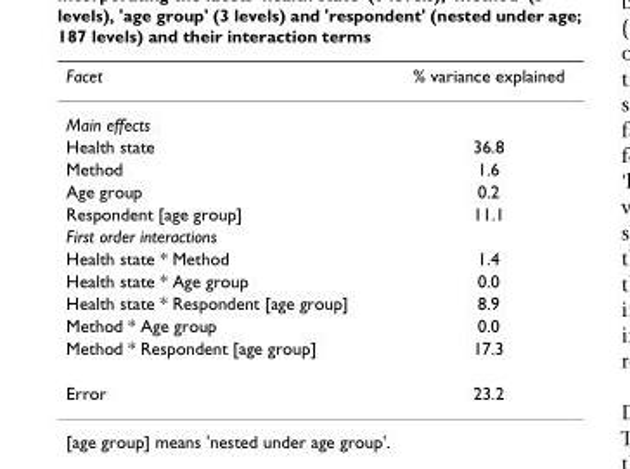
<table><thead><tr><td>Facet</td><td>% variance explained</td></tr></thead><tbody><tr><td colspan="2">Main effects</td></tr><tr><td>Health state</td><td>36.8</td></tr><tr><td>Method</td><td>1.6</td></tr><tr><td>Age group</td><td>0.2</td></tr><tr><td>Respondent [age group]</td><td>11.1</td></tr><tr><td colspan="2">First order interactions</td></tr><tr><td>Health state * Method</td><td>1.4</td></tr><tr><td>Health state * Age group</td><td>0.0</td></tr><tr><td>Health state * Respondent [age group]</td><td>8.9</td></tr><tr><td>Method * Age group</td><td>0.0</td></tr><tr><td>Method * Respondent [age group]</td><td>17.3</td></tr><tr><td>Error</td><td>23.2</td></tr></tbody></table>